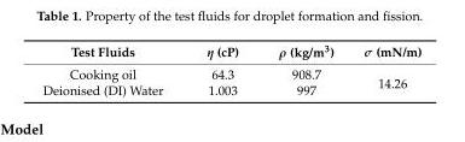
<table><thead><tr><td>Test Fluids</td><td>η (cP)</td><td>ρ (kg/m<sup>3</sup>)</td><td>σ (mN/m)</td></tr></thead><tbody><tr><td>Cooking oil</td><td>64.3</td><td>908.7</td><td rowspan="2">14.26</td></tr><tr><td>Deionised (DI) Water</td><td>1.003</td><td>997</td></tr></tbody></table>